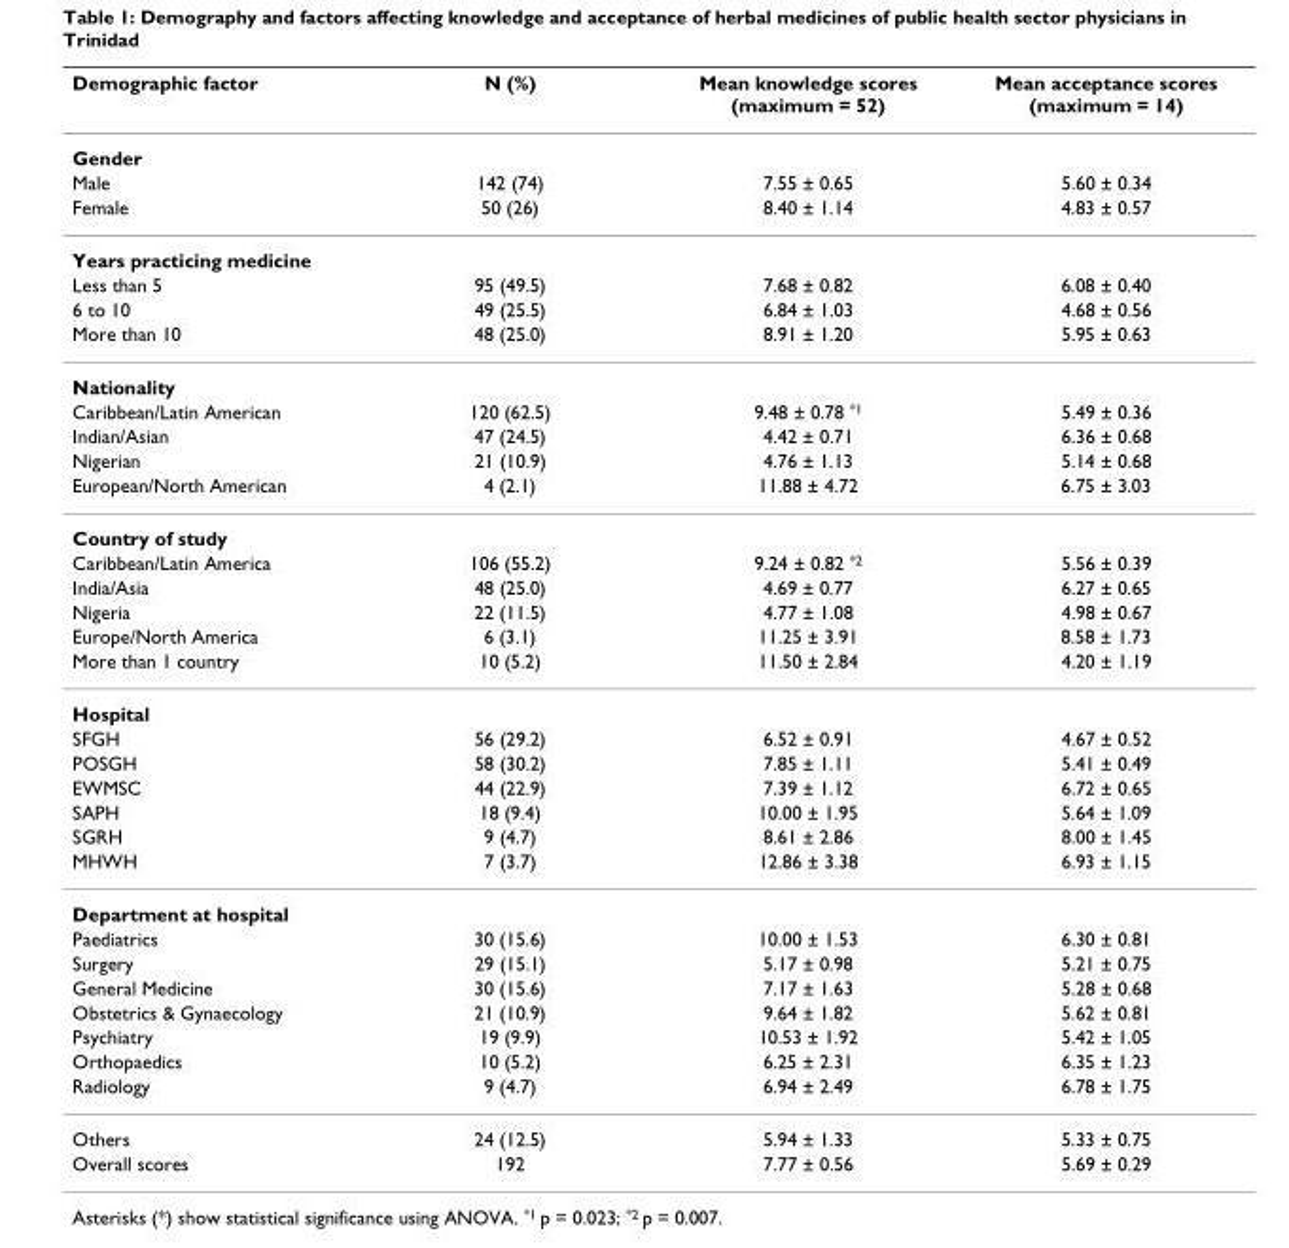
<table><thead><tr><td>Demographic factor</td><td>N (%)</td><td>Mean knowledge scores (maximum = 52)</td><td>Mean acceptance scores (maximum = 14)</td></tr></thead><tbody><tr><td colspan="4">Gender</td></tr><tr><td>Male</td><td>142 (74)</td><td>7.55 ± 0.65</td><td>5.60 ± 0.34</td></tr><tr><td>Female</td><td>50 (26)</td><td>8.40 ± 1.14</td><td>4.83 ± 0.57</td></tr><tr><td colspan="4">Years practicing medicine</td></tr><tr><td>Less than 5</td><td>95 (49.5)</td><td>7.68 ± 0.82</td><td>6.08 ± 0.40</td></tr><tr><td>6 to 10</td><td>49 (25.5)</td><td>6.84 ± 1.03</td><td>4.68 ± 0.56</td></tr><tr><td>More than 10</td><td>48 (25.0)</td><td>8.91 ± 1.20</td><td>5.95 ± 0.63</td></tr><tr><td colspan="4">Nationality</td></tr><tr><td>Caribbean/Latin American</td><td>120 (62.5)</td><td>9.48 ± 0.78 <sup>*1</sup></td><td>5.49 ± 0.36</td></tr><tr><td>Indian/Asian</td><td>47 (24.5)</td><td>4.42 ± 0.71</td><td>6.36 ± 0.68</td></tr><tr><td>Nigerian</td><td>21 (10.9)</td><td>4.76 ± 1.13</td><td>5.14 ± 0.68</td></tr><tr><td>European/North American</td><td>4 (2.1)</td><td>11.88 ± 4.72</td><td>6.75 ± 3.03</td></tr><tr><td colspan="4">Country of study</td></tr><tr><td>Caribbean/Latin America</td><td>106 (55.2)</td><td>9.24 ± 0.82 <sup>*2</sup></td><td>5.56 ± 0.39</td></tr><tr><td>India/Asia</td><td>48 (25.0)</td><td>4.69 ± 0.77</td><td>6.27 ± 0.65</td></tr><tr><td>Nigeria</td><td>22 (11.5)</td><td>4.77 ± 1.08</td><td>4.98 ± 0.67</td></tr><tr><td>Europe/North America</td><td>6 (3.1)</td><td>11.25 ± 3.91</td><td>8.58 ± 1.73</td></tr><tr><td>More than 1 country</td><td>10 (5.2)</td><td>11.50 ± 2.84</td><td>4.20 ± 1.19</td></tr><tr><td colspan="4">Hospital</td></tr><tr><td>SFGH</td><td>56 (29.2)</td><td>6.52 ± 0.91</td><td>4.67 ± 0.52</td></tr><tr><td>POSGH</td><td>58 (30.2)</td><td>7.85 ± 1.11</td><td>5.41 ± 0.49</td></tr><tr><td>EWMSC</td><td>44 (22.9)</td><td>7.39 ± 1.12</td><td>6.72 ± 0.65</td></tr><tr><td>SAPH</td><td>18 (9.4)</td><td>10.00 ± 1.95</td><td>5.64 ± 1.09</td></tr><tr><td>SGRH</td><td>9 (4.7)</td><td>8.61 ± 2.86</td><td>8.00 ± 1.45</td></tr><tr><td>MHWH</td><td>7 (3.7)</td><td>12.86 ± 3.38</td><td>6.93 ± 1.15</td></tr><tr><td colspan="4">Department at hospital</td></tr><tr><td>Paediatrics</td><td>30 (15.6)</td><td>10.00 ± 1.53</td><td>6.30 ± 0.81</td></tr><tr><td>Surgery</td><td>29 (15.1)</td><td>5.17 ± 0.98</td><td>5.21 ± 0.75</td></tr><tr><td>General Medicine</td><td>30 (15.6)</td><td>7.17 ± 1.63</td><td>5.28 ± 0.68</td></tr><tr><td>Obstetrics &amp; Gynaecology</td><td>21 (10.9)</td><td>9.64 ± 1.82</td><td>5.62 ± 0.81</td></tr><tr><td>Psychiatry</td><td>19 (9.9)</td><td>10.53 ± 1.92</td><td>5.42 ± 1.05</td></tr><tr><td>Orthopaedics</td><td>10 (5.2)</td><td>6.25 ± 2.31</td><td>6.35 ± 1.23</td></tr><tr><td>Radiology</td><td>9 (4.7)</td><td>6.94 ± 2.49</td><td>6.78 ± 1.75</td></tr><tr><td>Others</td><td>24 (12.5)</td><td>5.94 ± 1.33</td><td>5.33 ± 0.75</td></tr><tr><td>Overall scores</td><td>192</td><td>7.77 ± 0.56</td><td>5.69 ± 0.29</td></tr></tbody></table>